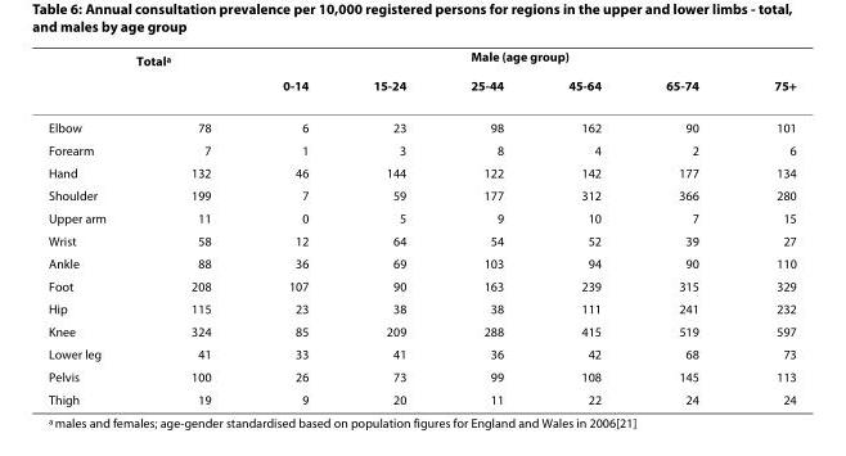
<table><thead><tr><td rowspan="2"></td><td rowspan="2">Total<sup>a</sup></td><td colspan="6">Male (age group)</td></tr><tr><td>0-14</td><td>15-24</td><td>25-44</td><td>45-64</td><td>65-74</td><td>75+</td></tr></thead><tbody><tr><td>Elbow</td><td>78</td><td>6</td><td>23</td><td>98</td><td>162</td><td>90</td><td>101</td></tr><tr><td>Forearm</td><td>7</td><td>1</td><td>3</td><td>8</td><td>4</td><td>2</td><td>6</td></tr><tr><td>Hand</td><td>132</td><td>46</td><td>144</td><td>122</td><td>142</td><td>177</td><td>134</td></tr><tr><td>Shoulder</td><td>199</td><td>7</td><td>59</td><td>177</td><td>312</td><td>366</td><td>280</td></tr><tr><td>Upper arm</td><td>11</td><td>0</td><td>5</td><td>9</td><td>10</td><td>7</td><td>15</td></tr><tr><td>Wrist</td><td>58</td><td>12</td><td>64</td><td>54</td><td>52</td><td>39</td><td>27</td></tr><tr><td>Ankle</td><td>88</td><td>36</td><td>69</td><td>103</td><td>94</td><td>90</td><td>110</td></tr><tr><td>Foot</td><td>208</td><td>107</td><td>90</td><td>163</td><td>239</td><td>315</td><td>329</td></tr><tr><td>Hip</td><td>115</td><td>23</td><td>38</td><td>38</td><td>111</td><td>241</td><td>232</td></tr><tr><td>Knee</td><td>324</td><td>85</td><td>209</td><td>288</td><td>415</td><td>519</td><td>597</td></tr><tr><td>Lower leg</td><td>41</td><td>33</td><td>41</td><td>36</td><td>42</td><td>68</td><td>73</td></tr><tr><td>Pelvis</td><td>100</td><td>26</td><td>73</td><td>99</td><td>108</td><td>145</td><td>113</td></tr><tr><td>Thigh</td><td>19</td><td>9</td><td>20</td><td>11</td><td>22</td><td>24</td><td>24</td></tr></tbody></table>